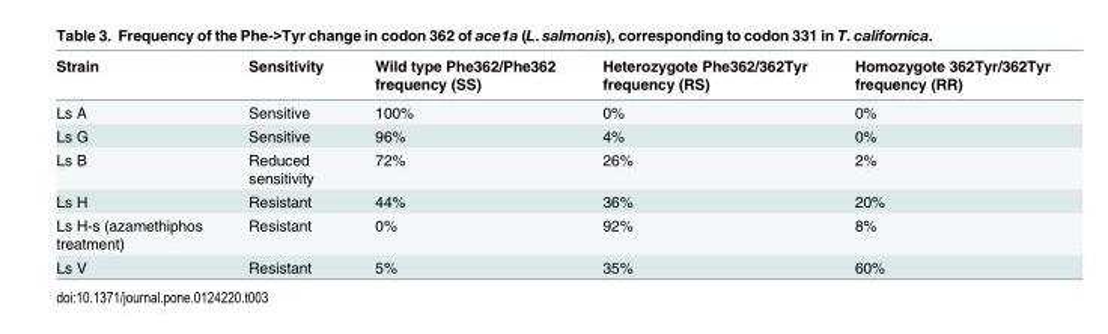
<table><thead><tr><td>Strain</td><td>Sensitivity</td><td>Wild type Phe362/Phe362 frequency (SS)</td><td>Heterozygote Phe362/362Tyr frequency (RS)</td><td>Homozygote 362Tyr/362Tyr frequency (RR)</td></tr></thead><tbody><tr><td>Ls A</td><td>Sensitive</td><td>100%</td><td>0%</td><td>0%</td></tr><tr><td>Ls G</td><td>Sensitive</td><td>96%</td><td>4%</td><td>0%</td></tr><tr><td>Ls B</td><td>Reduced sensitivity</td><td>72%</td><td>26%</td><td>2%</td></tr><tr><td>Ls H</td><td>Resistant</td><td>44%</td><td>36%</td><td>20%</td></tr><tr><td>Ls H-s (azamethiphos treatment)</td><td>Resistant</td><td>0%</td><td>92%</td><td>8%</td></tr><tr><td>Ls V</td><td>Resistant</td><td>5%</td><td>35%</td><td>60%</td></tr></tbody></table>